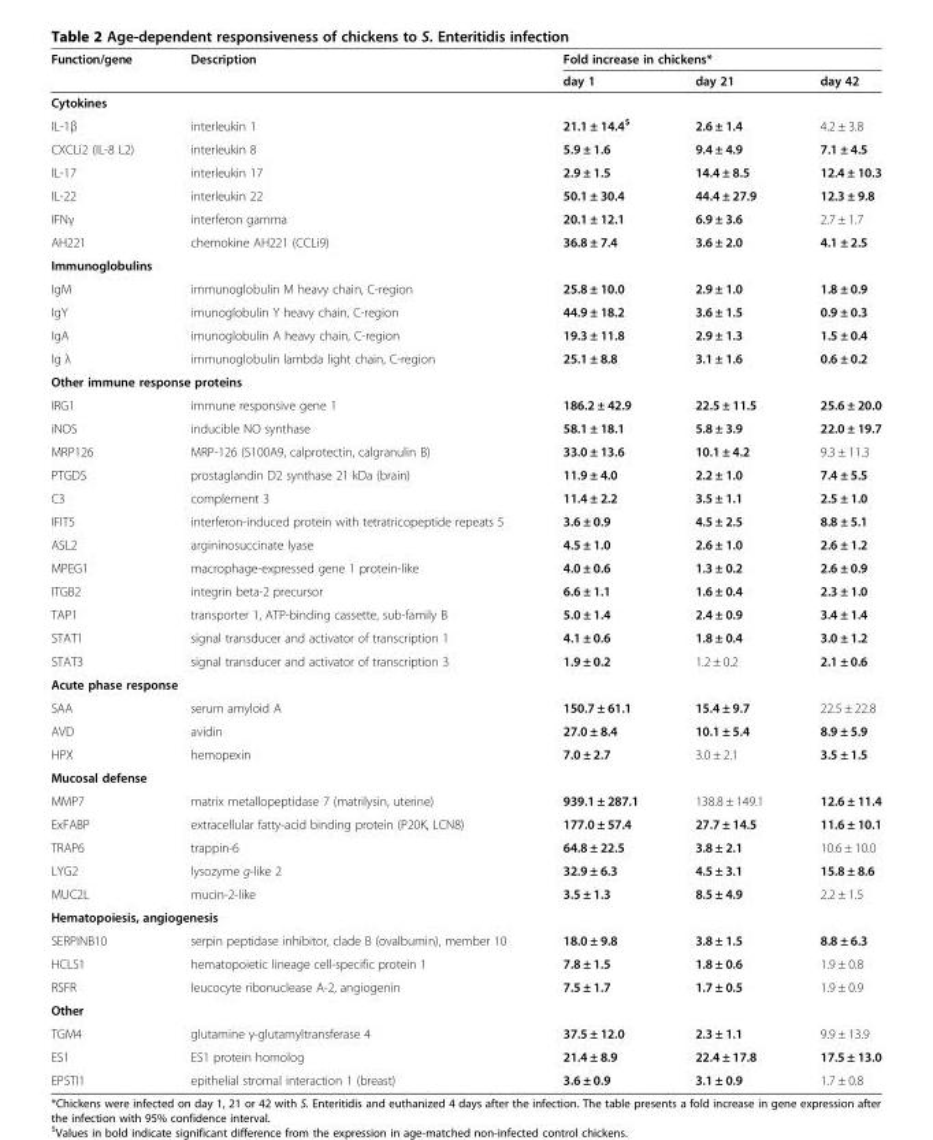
<table><thead><tr><td rowspan="2">Function/gene</td><td rowspan="2">Description</td><td colspan="3">Fold increase in chickens*</td></tr><tr><td>day 1</td><td>day 21</td><td>day 42</td></tr></thead><tbody><tr><td colspan="5">Cytokines</td></tr><tr><td>IL-1β</td><td>interleukin 1</td><td>21.1 ± 14.4<sup>$</sup></td><td>2.6 ± 1.4</td><td>4.2 ± 3.8</td></tr><tr><td>CXCLi2 (IL-8 L2)</td><td>interleukin 8</td><td>5.9 ± 1.6</td><td>9.4 ± 4.9</td><td>7.1 ± 4.5</td></tr><tr><td>IL-17</td><td>interleukin 17</td><td>2.9 ± 1.5</td><td>14.4 ± 8.5</td><td>12.4 ± 10.3</td></tr><tr><td>IL-22</td><td>interleukin 22</td><td>50.1 ± 30.4</td><td>44.4 ± 27.9</td><td>12.3 ± 9.8</td></tr><tr><td>IFNγ</td><td>interferon gamma</td><td>20.1 ± 12.1</td><td>6.9 ± 3.6</td><td>2.7 ± 1.7</td></tr><tr><td>AH221</td><td>chemokine AH221 (CCLi9)</td><td>36.8 ± 7.4</td><td>3.6 ± 2.0</td><td>4.1 ± 2.5</td></tr><tr><td colspan="5">Immunoglobulins</td></tr><tr><td>IgM</td><td>immunoglobulin M heavy chain, C-region</td><td>25.8 ± 10.0</td><td>2.9 ± 1.0</td><td>1.8 ± 0.9</td></tr><tr><td>IgY</td><td>imunoglobulin Y heavy chain, C-region</td><td>44.9 ± 18.2</td><td>3.6 ± 1.5</td><td>0.9 ± 0.3</td></tr><tr><td>IgA</td><td>imunoglobulin A heavy chain, C-region</td><td>19.3 ± 11.8</td><td>2.9 ± 1.3</td><td>1.5 ± 0.4</td></tr><tr><td>Ig λ</td><td>immunoglobulin lambda light chain, C-region</td><td>25.1 ± 8.8</td><td>3.1 ± 1.6</td><td>0.6 ± 0.2</td></tr><tr><td colspan="5">Other immune response proteins</td></tr><tr><td>IRG1</td><td>immune responsive gene 1</td><td>186.2 ± 42.9</td><td>22.5 ± 11.5</td><td>25.6 ± 20.0</td></tr><tr><td>iNOS</td><td>inducible NO synthase</td><td>58.1 ± 18.1</td><td>5.8 ± 3.9</td><td>22.0 ± 19.7</td></tr><tr><td>MRP126</td><td>MRP-126 (S100A9, calprotectin, calgranulin B)</td><td>33.0 ± 13.6</td><td>10.1 ± 4.2</td><td>9.3 ± 11.3</td></tr><tr><td>PTGDS</td><td>prostaglandin D2 synthase 21 kDa (brain)</td><td>11.9 ± 4.0</td><td>2.2 ± 1.0</td><td>7.4 ± 5.5</td></tr><tr><td>C3</td><td>complement 3</td><td>11.4 ± 2.2</td><td>3.5 ± 1.1</td><td>2.5 ± 1.0</td></tr><tr><td>IFIT5</td><td>interferon-induced protein with tetratricopeptide repeats 5</td><td>3.6 ± 0.9</td><td>4.5 ± 2.5</td><td>8.8 ± 5.1</td></tr><tr><td>ASL2</td><td>argininosuccinate lyase</td><td>4.5 ± 1.0</td><td>2.6 ± 1.0</td><td>2.6 ± 1.2</td></tr><tr><td>MPEG1</td><td>macrophage-expressed gene 1 protein-like</td><td>4.0 ± 0.6</td><td>1.3 ± 0.2</td><td>2.6 ± 0.9</td></tr><tr><td>ITGB2</td><td>integrin beta-2 precursor</td><td>6.6 ± 1.1</td><td>1.6 ± 0.4</td><td>2.3 ± 1.0</td></tr><tr><td>TAP1</td><td>transporter 1, ATP-binding cassette, sub-family B</td><td>5.0 ± 1.4</td><td>2.4 ± 0.9</td><td>3.4 ± 1.4</td></tr><tr><td>STAT1</td><td>signal transducer and activator of transcription 1</td><td>4.1 ± 0.6</td><td>1.8 ± 0.4</td><td>3.0 ± 1.2</td></tr><tr><td>STAT3</td><td>signal transducer and activator of transcription 3</td><td>1.9 ± 0.2</td><td>1.2 ± 0.2</td><td>2.1 ± 0.6</td></tr><tr><td colspan="5">Acute phase response</td></tr><tr><td>SAA</td><td>serum amyloid A</td><td>150.7 ± 61.1</td><td>15.4 ± 9.7</td><td>22.5 ± 22.8</td></tr><tr><td>AVD</td><td>avidin</td><td>27.0 ± 8.4</td><td>10.1 ± 5.4</td><td>8.9 ± 5.9</td></tr><tr><td>HPX</td><td>hemopexin</td><td>7.0 ± 2.7</td><td>3.0 ± 2.1</td><td>3.5 ± 1.5</td></tr><tr><td colspan="5">Mucosal defense</td></tr><tr><td>MMP7</td><td>matrix metallopeptidase 7 (matrilysin, uterine)</td><td>939.1 ± 287.1</td><td>138.8 ± 149.1</td><td>12.6 ± 11.4</td></tr><tr><td>ExFABP</td><td>extracellular fatty-acid binding protein (P20K, LCN8)</td><td>177.0 ± 57.4</td><td>27.7 ± 14.5</td><td>11.6 ± 10.1</td></tr><tr><td>TRAP6</td><td>trappin-6</td><td>64.8 ± 22.5</td><td>3.8 ± 2.1</td><td>10.6 ± 10.0</td></tr><tr><td>LYG2</td><td>lysozyme g-like 2</td><td>32.9 ± 6.3</td><td>4.5 ± 3.1</td><td>15.8 ± 8.6</td></tr><tr><td>MUC2L</td><td>mucin-2-like</td><td>3.5 ± 1.3</td><td>8.5 ± 4.9</td><td>2.2 ± 1.5</td></tr><tr><td colspan="5">Hematopoiesis, angiogenesis</td></tr><tr><td>SERPINB10</td><td>serpin peptidase inhibitor, clade B (ovalbumin), member 10</td><td>18.0 ± 9.8</td><td>3.8 ± 1.5</td><td>8.8 ± 6.3</td></tr><tr><td>HCLS1</td><td>hematopoietic lineage cell-specific protein 1</td><td>7.8 ± 1.5</td><td>1.8 ± 0.6</td><td>1.9 ± 0.8</td></tr><tr><td>RSFR</td><td>leucocyte ribonuclease A-2, angiogenin</td><td>7.5 ± 1.7</td><td>1.7 ± 0.5</td><td>1.9 ± 0.9</td></tr><tr><td colspan="5">Other</td></tr><tr><td>TGM4</td><td>glutamine γ-glutamyltransferase 4</td><td>37.5 ± 12.0</td><td>2.3 ± 1.1</td><td>9.9 ± 13.9</td></tr><tr><td>ES1</td><td>ES1 protein homolog</td><td>21.4 ± 8.9</td><td>22.4 ± 17.8</td><td>17.5 ± 13.0</td></tr><tr><td>EPSTI1</td><td>epithelial stromal interaction 1 (breast)</td><td>3.6 ± 0.9</td><td>3.1 ± 0.9</td><td>1.7 ± 0.8</td></tr></tbody></table>